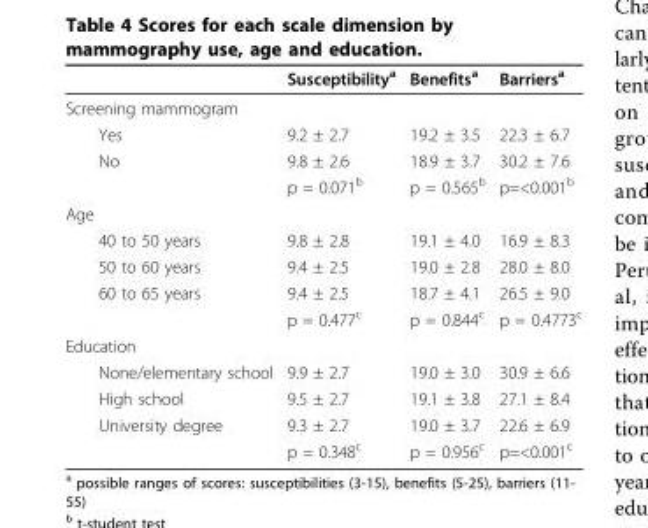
<table><thead><tr><td></td><td>Susceptibility<sup>a</sup></td><td>Benefits<sup>a</sup></td><td>Barriers<sup>a</sup></td></tr></thead><tbody><tr><td colspan="4">Screening mammogram</td></tr><tr><td>Yes</td><td>9.2 ± 2.7</td><td>19.2 ± 3.5</td><td>22.3 ± 6.7</td></tr><tr><td rowspan="2">No</td><td>9.8 ± 2.6</td><td>18.9 ± 3.7</td><td>30.2 ± 7.6</td></tr><tr><td>p = 0.071<sup>b</sup></td><td>p = 0.565<sup>b</sup></td><td>p=&lt;0.001<sup>b</sup></td></tr><tr><td colspan="4">Age</td></tr><tr><td>40 to 50 years</td><td>9.8 ± 2.8</td><td>19.1 ± 4.0</td><td>16.9 ± 8.3</td></tr><tr><td>50 to 60 years</td><td>9.4 ± 2.5</td><td>19.0 ± 2.8</td><td>28.0 ± 8.0</td></tr><tr><td rowspan="2">60 to 65 years</td><td>9.4 ± 2.5</td><td>18.7 ± 4.1</td><td>26.5 ± 9.0</td></tr><tr><td>p = 0.477<sup>c</sup></td><td>p = 0.844<sup>c</sup></td><td>p = 0.4773<sup>c</sup></td></tr><tr><td colspan="4">Education</td></tr><tr><td>None/elementary school</td><td>9.9 ± 2.7</td><td>19.0 ± 3.0</td><td>30.9 ± 6.6</td></tr><tr><td>High school</td><td>9.5 ± 2.7</td><td>19.1 ± 3.8</td><td>27.1 ± 8.4</td></tr><tr><td rowspan="2">University degree</td><td>9.3 ± 2.7</td><td>19.0 ± 3.7</td><td>22.6 ± 6.9</td></tr><tr><td>p = 0.348<sup>c</sup></td><td>p = 0.956<sup>c</sup></td><td>p=&lt;0.001<sup>c</sup></td></tr></tbody></table>